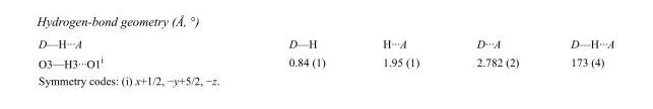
<table><tbody><tr><td>D—H···A</td><td>D—H</td><td>H···A</td><td>D···A</td><td>D—H···A</td></tr><tr><td>O3—H3···O1<sup>i</sup></td><td>0.84 (1)</td><td>1.95 (1)</td><td>2.782 (2)</td><td>173 (4)</td></tr></tbody></table>